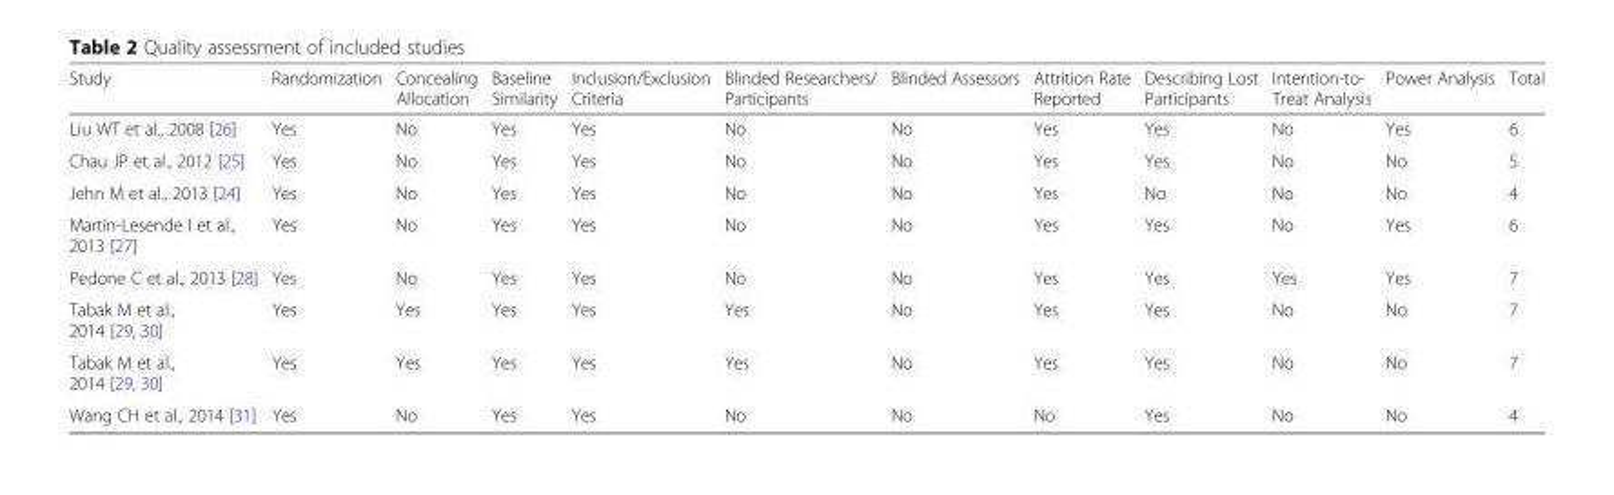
<table><thead><tr><td>Study</td><td>Randomization</td><td>Concealing Allocation</td><td>Baseline Similarity</td><td>Inclusion/Exclusion Criteria</td><td>Blinded Researchers/ Participants</td><td>Blinded Assessors</td><td>Attrition Rate Reported</td><td>Describing Lost Participants</td><td>Intention-to- Treat Analysis</td><td>Power Analysis</td><td>Total</td></tr></thead><tbody><tr><td>Liu WT et al., 2008 [26]</td><td>Yes</td><td>No</td><td>Yes</td><td>Yes</td><td>No</td><td>No</td><td>Yes</td><td>Yes</td><td>No</td><td>Yes</td><td>6</td></tr><tr><td>Chau JP et al., 2012 [25]</td><td>Yes</td><td>No</td><td>Yes</td><td>Yes</td><td>No</td><td>No</td><td>Yes</td><td>Yes</td><td>No</td><td>No</td><td>5</td></tr><tr><td>Jehn M et al., 2013 [24]</td><td>Yes</td><td>No</td><td>Yes</td><td>Yes</td><td>No</td><td>No</td><td>Yes</td><td>No</td><td>No</td><td>No</td><td>4</td></tr><tr><td>Martín-Lesende I et al., 2013 [27]</td><td>Yes</td><td>No</td><td>Yes</td><td>Yes</td><td>No</td><td>No</td><td>Yes</td><td>Yes</td><td>No</td><td>Yes</td><td>6</td></tr><tr><td>Pedone C et al., 2013 [28]</td><td>Yes</td><td>No</td><td>Yes</td><td>Yes</td><td>No</td><td>No</td><td>Yes</td><td>Yes</td><td>Yes</td><td>Yes</td><td>7</td></tr><tr><td>Tabak M et al., 2014 [29, 30]</td><td>Yes</td><td>Yes</td><td>Yes</td><td>Yes</td><td>Yes</td><td>No</td><td>Yes</td><td>Yes</td><td>No</td><td>No</td><td>7</td></tr><tr><td>Tabak M et al., 2014 [29, 30]</td><td>Yes</td><td>Yes</td><td>Yes</td><td>Yes</td><td>Yes</td><td>No</td><td>Yes</td><td>Yes</td><td>No</td><td>No</td><td>7</td></tr><tr><td>Wang CH et al., 2014 [31]</td><td>Yes</td><td>No</td><td>Yes</td><td>Yes</td><td>No</td><td>No</td><td>No</td><td>Yes</td><td>No</td><td>No</td><td>4</td></tr></tbody></table>